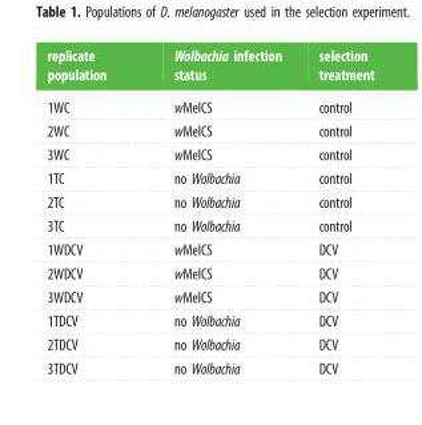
<table><thead><tr><td>replicate population</td><td>Wolbachia infection status</td><td>selection treatment</td></tr></thead><tbody><tr><td>1WC</td><td>wMelCS</td><td>control</td></tr><tr><td>2WC</td><td>wMelCS</td><td>control</td></tr><tr><td>3WC</td><td>wMelCS</td><td>control</td></tr><tr><td>1TC</td><td>no Wolbachia</td><td>control</td></tr><tr><td>2TC</td><td>no Wolbachia</td><td>control</td></tr><tr><td>3TC</td><td>no Wolbachia</td><td>control</td></tr><tr><td>1WDCV</td><td>wMelCS</td><td>DCV</td></tr><tr><td>2WDCV</td><td>wMelCS</td><td>DCV</td></tr><tr><td>3WDCV</td><td>wMelCS</td><td>DCV</td></tr><tr><td>1TDCV</td><td>no Wolbachia</td><td>DCV</td></tr><tr><td>2TDCV</td><td>no Wolbachia</td><td>DCV</td></tr><tr><td>3TDCV</td><td>no Wolbachia</td><td>DCV</td></tr></tbody></table>